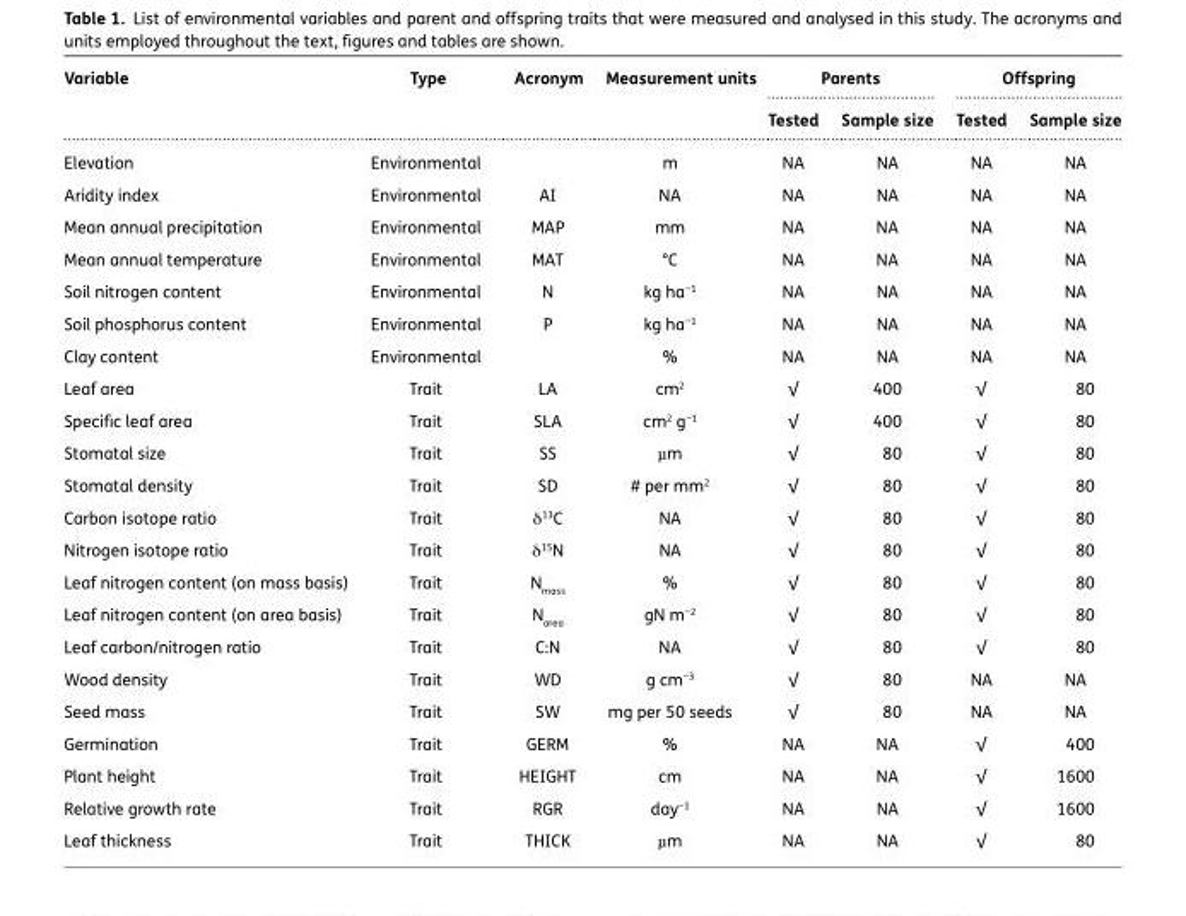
<table><thead><tr><td rowspan="2">Variable</td><td rowspan="2">Type</td><td rowspan="2">Acronym</td><td rowspan="2">Measurement units</td><td colspan="2">Parents</td><td colspan="2">Offspring</td></tr><tr><td>Tested</td><td>Sample size</td><td>Tested</td><td>Sample size</td></tr></thead><tbody><tr><td>Elevation</td><td>Environmental</td><td></td><td>m</td><td>NA</td><td>NA</td><td>NA</td><td>NA</td></tr><tr><td>Aridity index</td><td>Environmental</td><td>AI</td><td>NA</td><td>NA</td><td>NA</td><td>NA</td><td>NA</td></tr><tr><td>Mean annual precipitation</td><td>Environmental</td><td>MAP</td><td>mm</td><td>NA</td><td>NA</td><td>NA</td><td>NA</td></tr><tr><td>Mean annual temperature</td><td>Environmental</td><td>MAT</td><td>°C</td><td>NA</td><td>NA</td><td>NA</td><td>NA</td></tr><tr><td>Soil nitrogen content</td><td>Environmental</td><td>N</td><td>kg ha<sup>−1</sup></td><td>NA</td><td>NA</td><td>NA</td><td>NA</td></tr><tr><td>Soil phosphorus content</td><td>Environmental</td><td>P</td><td>kg ha<sup>−1</sup></td><td>NA</td><td>NA</td><td>NA</td><td>NA</td></tr><tr><td>Clay content</td><td>Environmental</td><td></td><td>%</td><td>NA</td><td>NA</td><td>NA</td><td>NA</td></tr><tr><td>Leaf area</td><td>Trait</td><td>LA</td><td>cm<sup>2</sup></td><td>√</td><td>400</td><td>√</td><td>80</td></tr><tr><td>Specific leaf area</td><td>Trait</td><td>SLA</td><td>cm<sup>2</sup> g<sup>−1</sup></td><td>√</td><td>400</td><td>√</td><td>80</td></tr><tr><td>Stomatal size</td><td>Trait</td><td>SS</td><td>µm</td><td>√</td><td>80</td><td>√</td><td>80</td></tr><tr><td>Stomatal density</td><td>Trait</td><td>SD</td><td># per mm<sup>2</sup></td><td>√</td><td>80</td><td>√</td><td>80</td></tr><tr><td>Carbon isotope ratio</td><td>Trait</td><td>δ<sup>13</sup>C</td><td>NA</td><td>√</td><td>80</td><td>√</td><td>80</td></tr><tr><td>Nitrogen isotope ratio</td><td>Trait</td><td>δ<sup>15</sup>N</td><td>NA</td><td>√</td><td>80</td><td>√</td><td>80</td></tr><tr><td>Leaf nitrogen content (on mass basis)</td><td>Trait</td><td>N<sub>mass</sub></td><td>%</td><td>√</td><td>80</td><td>√</td><td>80</td></tr><tr><td>Leaf nitrogen content (on area basis)</td><td>Trait</td><td>N<sub>area</sub></td><td>gN m<sup>−2</sup></td><td>√</td><td>80</td><td>√</td><td>80</td></tr><tr><td>Leaf carbon/nitrogen ratio</td><td>Trait</td><td>C:N</td><td>NA</td><td>√</td><td>80</td><td>√</td><td>80</td></tr><tr><td>Wood density</td><td>Trait</td><td>WD</td><td>g cm<sup>−3</sup></td><td>√</td><td>80</td><td>NA</td><td>NA</td></tr><tr><td>Seed mass</td><td>Trait</td><td>SW</td><td>mg per 50 seeds</td><td>√</td><td>80</td><td>NA</td><td>NA</td></tr><tr><td>Germination</td><td>Trait</td><td>GERM</td><td>%</td><td>NA</td><td>NA</td><td>√</td><td>400</td></tr><tr><td>Plant height</td><td>Trait</td><td>HEIGHT</td><td>cm</td><td>NA</td><td>NA</td><td>√</td><td>1600</td></tr><tr><td>Relative growth rate</td><td>Trait</td><td>RGR</td><td>day<sup>−1</sup></td><td>NA</td><td>NA</td><td>√</td><td>1600</td></tr><tr><td>Leaf thickness</td><td>Trait</td><td>THICK</td><td>µm</td><td>NA</td><td>NA</td><td>√</td><td>80</td></tr></tbody></table>